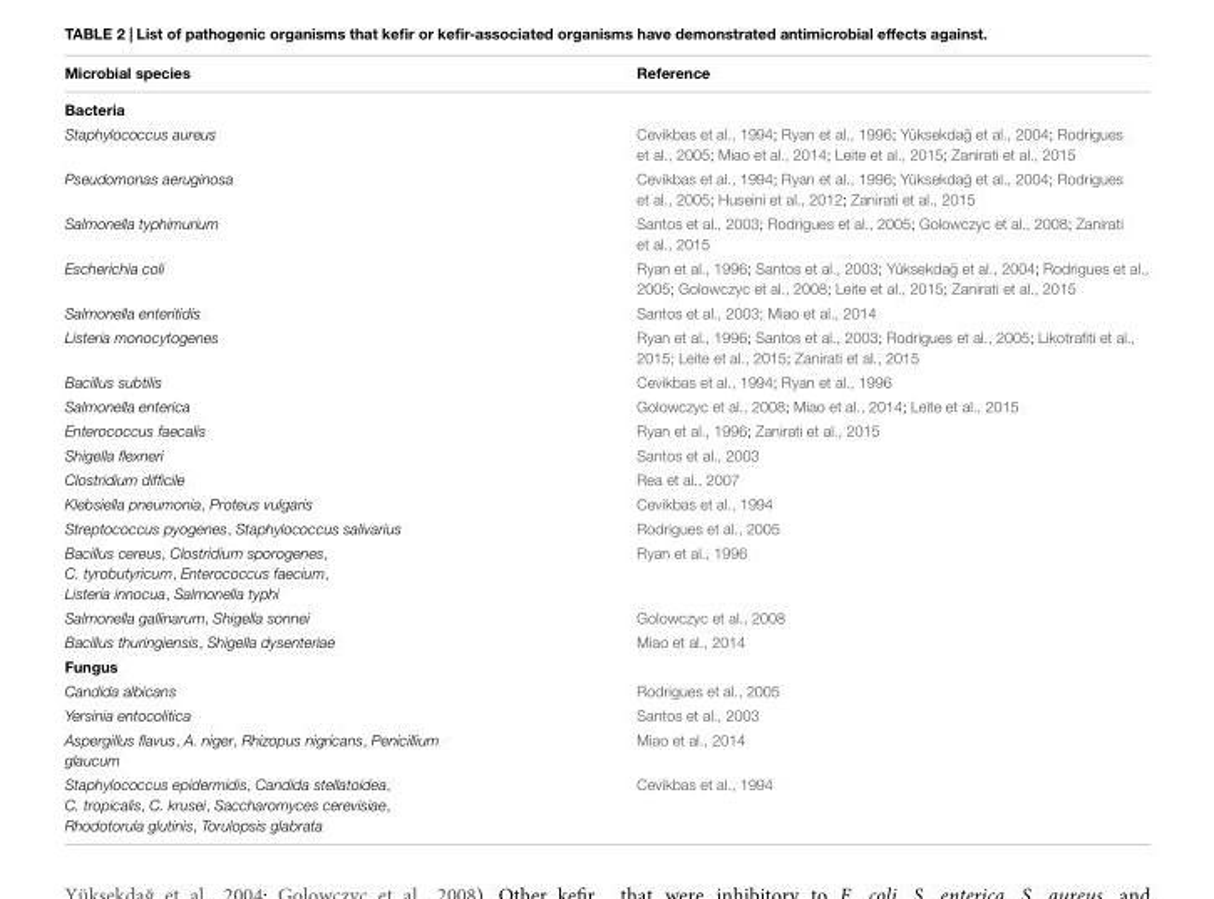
<table><thead><tr><td>Microbial species</td><td>Reference</td></tr></thead><tbody><tr><td colspan="2">Bacteria</td></tr><tr><td>Staphylococcus aureus</td><td>Cevikbas et al., 1994; Ryan et al., 1996; Yüksekda ˘g et al., 2004; Rodrigues et al., 2005; Miao et al., 2014; Leite et al., 2015; Zanirati et al., 2015</td></tr><tr><td>Pseudomonas aeruginosa</td><td>Cevikbas et al., 1994; Ryan et al., 1996; Yüksekda ˘g et al., 2004; Rodrigues et al., 2005; Huseini et al., 2012; Zanirati et al., 2015</td></tr><tr><td>Salmonella typhimurium</td><td>Santos et al., 2003; Rodrigues et al., 2005; Golowczyc et al., 2008; Zanirati et al., 2015</td></tr><tr><td>Escherichia coli</td><td>Ryan et al., 1996; Santos et al., 2003; Yüksekda ˘g et al., 2004; Rodrigues et al., 2005; Golowczyc et al., 2008; Leite et al., 2015; Zanirati et al., 2015</td></tr><tr><td>Salmonella enteritidis</td><td>Santos et al., 2003; Miao et al., 2014</td></tr><tr><td>Listeria monocytogenes</td><td>Ryan et al., 1996; Santos et al., 2003; Rodrigues et al., 2005; Likotrafiti et al., 2015; Leite et al., 2015; Zanirati et al., 2015</td></tr><tr><td>Bacillus subtilis</td><td>Cevikbas et al., 1994; Ryan et al., 1996</td></tr><tr><td>Salmonella enterica</td><td>Golowczyc et al., 2008; Miao et al., 2014; Leite et al., 2015</td></tr><tr><td>Enterococcus faecalis</td><td>Ryan et al., 1996; Zanirati et al., 2015</td></tr><tr><td>Shigella flexneri</td><td>Santos et al., 2003</td></tr><tr><td>Clostridium difficile</td><td>Rea et al., 2007</td></tr><tr><td>Klebsiella pneumonia, Proteus vulgaris</td><td>Cevikbas et al., 1994</td></tr><tr><td>Streptococcus pyogenes, Staphylococcus salivarius</td><td>Rodrigues et al., 2005</td></tr><tr><td>Bacillus cereus, Clostridium sporogenes, C. tyrobutyricum, Enterococcus faecium, Listeria innocua, Salmonella typhi</td><td>Ryan et al., 1996</td></tr><tr><td>Salmonella gallinarum, Shigella sonnei</td><td>Golowczyc et al., 2008</td></tr><tr><td>Bacillus thuringiensis, Shigella dysenteriae</td><td>Miao et al., 2014</td></tr><tr><td colspan="2">Fungus</td></tr><tr><td>Candida albicans</td><td>Rodrigues et al., 2005</td></tr><tr><td>Yersinia entocolitica</td><td>Santos et al., 2003</td></tr><tr><td>Aspergillus flavus, A. niger, Rhizopus nigricans, Penicillium glaucum</td><td>Miao et al., 2014</td></tr><tr><td>Staphylococcus epidermidis, Candida stellatoidea, C. tropicalis, C. krusei, Saccharomyces cerevisiae, Rhodotorula glutinis, Torulopsis glabrata</td><td>Cevikbas et al., 1994</td></tr></tbody></table>